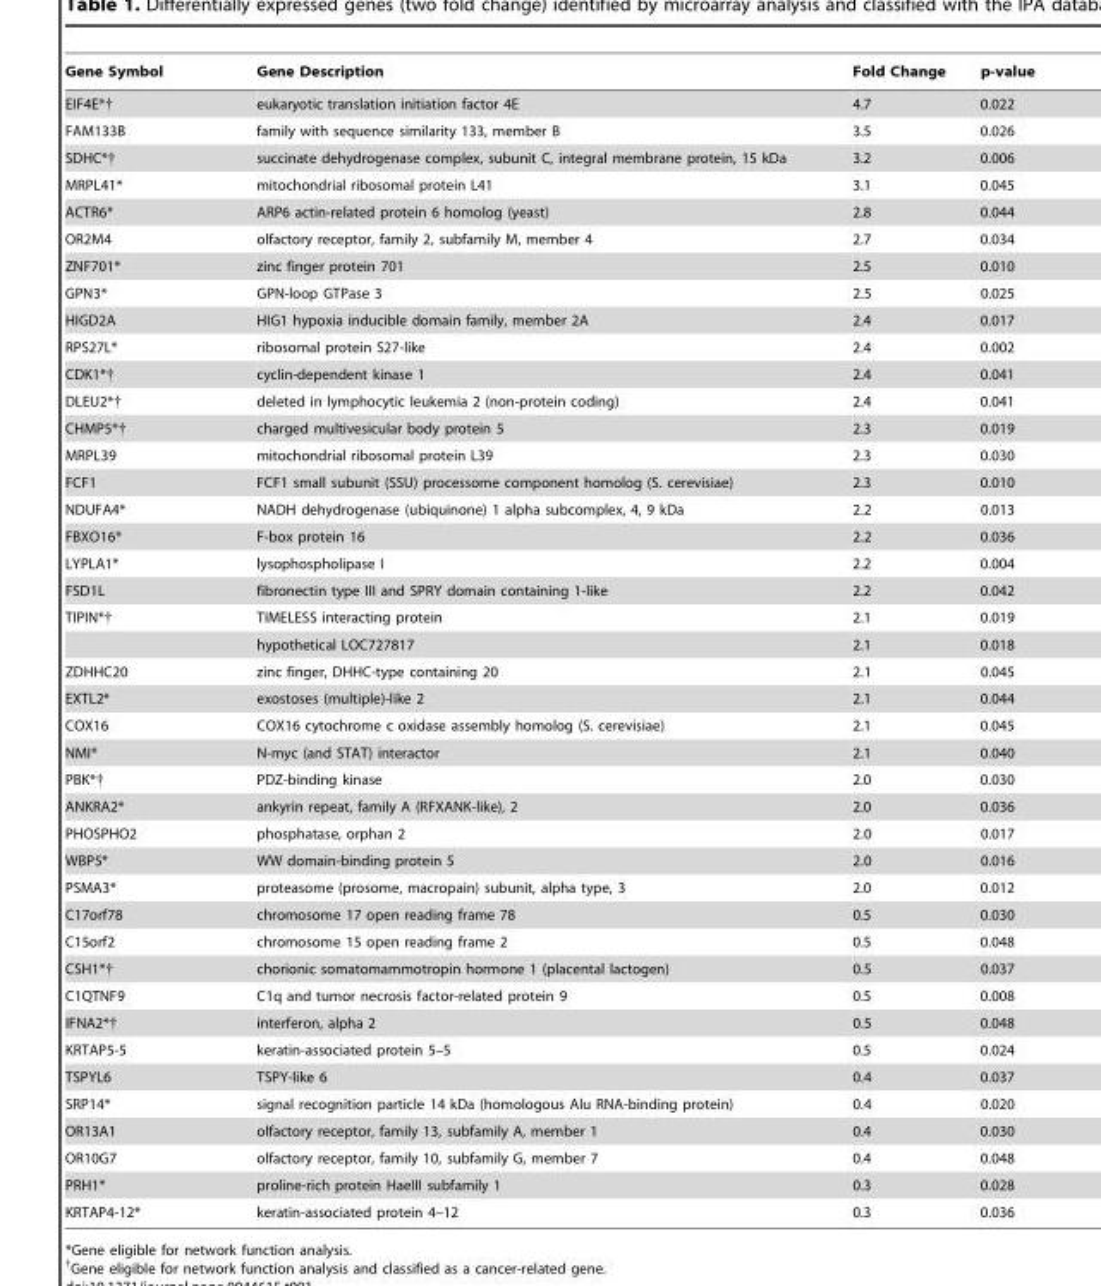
<table><thead><tr><td>Gene Symbol</td><td>Gene Description</td><td>Fold Change</td><td>p-value</td></tr></thead><tbody><tr><td>EIF4E*†</td><td>eukaryotic translation initiation factor 4E</td><td>4.7</td><td>0.022</td></tr><tr><td>FAM133B</td><td>family with sequence similarity 133, member B</td><td>3.5</td><td>0.026</td></tr><tr><td>SDHC*†</td><td>succinate dehydrogenase complex, subunit C, integral membrane protein, 15 kDa</td><td>3.2</td><td>0.006</td></tr><tr><td>MRPL41*</td><td>mitochondrial ribosomal protein L41</td><td>3.1</td><td>0.045</td></tr><tr><td>ACTR6*</td><td>ARP6 actin-related protein 6 homolog (yeast)</td><td>2.8</td><td>0.044</td></tr><tr><td>OR2M4</td><td>olfactory receptor, family 2, subfamily M, member 4</td><td>2.7</td><td>0.034</td></tr><tr><td>ZNF701*</td><td>zinc finger protein 701</td><td>2.5</td><td>0.010</td></tr><tr><td>GPN3*</td><td>GPN-loop GTPase 3</td><td>2.5</td><td>0.025</td></tr><tr><td>HIGD2A</td><td>HIG1 hypoxia inducible domain family, member 2A</td><td>2.4</td><td>0.017</td></tr><tr><td>RPS27L*</td><td>ribosomal protein S27-like</td><td>2.4</td><td>0.002</td></tr><tr><td>CDK1*†</td><td>cyclin-dependent kinase 1</td><td>2.4</td><td>0.041</td></tr><tr><td>DLEU2*†</td><td>deleted in lymphocytic leukemia 2 (non-protein coding)</td><td>2.4</td><td>0.041</td></tr><tr><td>CHMP5*†</td><td>charged multivesicular body protein 5</td><td>2.3</td><td>0.019</td></tr><tr><td>MRPL39</td><td>mitochondrial ribosomal protein L39</td><td>2.3</td><td>0.030</td></tr><tr><td>FCF1</td><td>FCF1 small subunit (SSU) processome component homolog (S. cerevisiae)</td><td>2.3</td><td>0.010</td></tr><tr><td>NDUFA4*</td><td>NADH dehydrogenase (ubiquinone) 1 alpha subcomplex, 4, 9 kDa</td><td>2.2</td><td>0.013</td></tr><tr><td>FBXO16*</td><td>F-box protein 16</td><td>2.2</td><td>0.036</td></tr><tr><td>LYPLA1*</td><td>lysophospholipase I</td><td>2.2</td><td>0.004</td></tr><tr><td>FSD1L</td><td>fibronectin type III and SPRY domain containing 1-like</td><td>2.2</td><td>0.042</td></tr><tr><td rowspan="2">TIPIN*†</td><td>TIMELESS interacting protein</td><td>2.1</td><td>0.019</td></tr><tr><td>hypothetical LOC727817</td><td>2.1</td><td>0.018</td></tr><tr><td>ZDHHC20</td><td>zinc finger, DHHC-type containing 20</td><td>2.1</td><td>0.045</td></tr><tr><td>EXTL2*</td><td>exostoses (multiple)-like 2</td><td>2.1</td><td>0.044</td></tr><tr><td>COX16</td><td>COX16 cytochrome c oxidase assembly homolog (S. cerevisiae)</td><td>2.1</td><td>0.045</td></tr><tr><td>NMI*</td><td>N-myc (and STAT) interactor</td><td>2.1</td><td>0.040</td></tr><tr><td>PBK*†</td><td>PDZ-binding kinase</td><td>2.0</td><td>0.030</td></tr><tr><td>ANKRA2*</td><td>ankyrin repeat, family A (RFXANK-like), 2</td><td>2.0</td><td>0.036</td></tr><tr><td>PHOSPHO2</td><td>phosphatase, orphan 2</td><td>2.0</td><td>0.017</td></tr><tr><td>WBP5*</td><td>WW domain-binding protein 5</td><td>2.0</td><td>0.016</td></tr><tr><td>PSMA3*</td><td>proteasome (prosome, macropain) subunit, alpha type, 3</td><td>2.0</td><td>0.012</td></tr><tr><td>C17orf78</td><td>chromosome 17 open reading frame 78</td><td>0.5</td><td>0.030</td></tr><tr><td>C15orf2</td><td>chromosome 15 open reading frame 2</td><td>0.5</td><td>0.048</td></tr><tr><td>CSH1*†</td><td>chorionic somatomammotropin hormone 1 (placental lactogen)</td><td>0.5</td><td>0.037</td></tr><tr><td>C1QTNF9</td><td>C1q and tumor necrosis factor-related protein 9</td><td>0.5</td><td>0.008</td></tr><tr><td>IFNA2*†</td><td>interferon, alpha 2</td><td>0.5</td><td>0.048</td></tr><tr><td>KRTAP5-5</td><td>keratin-associated protein 5–5</td><td>0.5</td><td>0.024</td></tr><tr><td>TSPYL6</td><td>TSPY-like 6</td><td>0.4</td><td>0.037</td></tr><tr><td>SRP14*</td><td>signal recognition particle 14 kDa (homologous Alu RNA-binding protein)</td><td>0.4</td><td>0.020</td></tr><tr><td>OR13A1</td><td>olfactory receptor, family 13, subfamily A, member 1</td><td>0.4</td><td>0.030</td></tr><tr><td>OR10G7</td><td>olfactory receptor, family 10, subfamily G, member 7</td><td>0.4</td><td>0.048</td></tr><tr><td>PRH1*</td><td>proline-rich protein HaeIII subfamily 1</td><td>0.3</td><td>0.028</td></tr><tr><td>KRTAP4-12*</td><td>keratin-associated protein 4–12</td><td>0.3</td><td>0.036</td></tr></tbody></table>